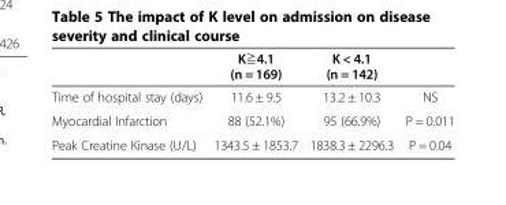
<table><thead><tr><td></td><td>K≧4.1 (n = 169)</td><td>K &lt; 4.1 (n = 142)</td><td></td></tr></thead><tbody><tr><td>Time of hospital stay (days)</td><td>11.6 ± 9.5</td><td>13.2 ± 10.3</td><td>NS</td></tr><tr><td>Myocardial Infarction</td><td>88 (52.1%)</td><td>95 (66.9%)</td><td>P = 0.011</td></tr><tr><td>Peak Creatine Kinase (U/L)</td><td>1343.5 ± 1853.7</td><td>1838.3 ± 2296.3</td><td>P = 0.04</td></tr></tbody></table>